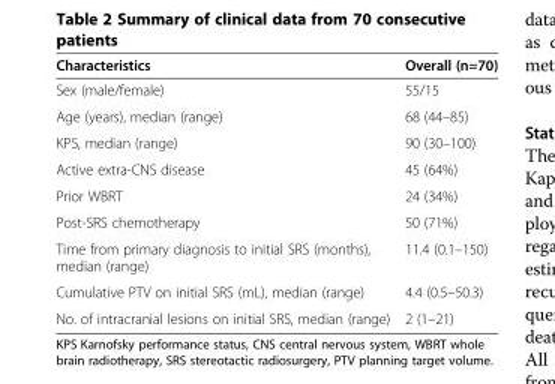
<table><thead><tr><td>Characteristics</td><td>Overall (n=70)</td></tr></thead><tbody><tr><td>Sex (male/female)</td><td>55/15</td></tr><tr><td>Age (years), median (range)</td><td>68 (44–85)</td></tr><tr><td>KPS, median (range)</td><td>90 (30–100)</td></tr><tr><td>Active extra-CNS disease</td><td>45 (64%)</td></tr><tr><td>Prior WBRT</td><td>24 (34%)</td></tr><tr><td>Post-SRS chemotherapy</td><td>50 (71%)</td></tr><tr><td>Time from primary diagnosis to initial SRS (months), median (range)</td><td>11.4 (0.1–150)</td></tr><tr><td>Cumulative PTV on initial SRS (mL), median (range)</td><td>4.4 (0.5–50.3)</td></tr><tr><td>No. of intracranial lesions on initial SRS, median (range)</td><td>2 (1–21)</td></tr></tbody></table>